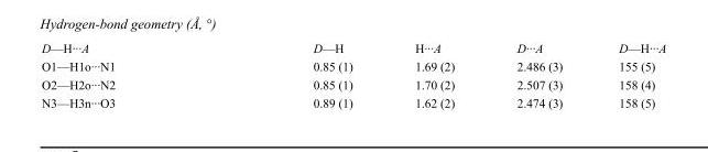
<table><tbody><tr><td>D—H···A</td><td>D—H</td><td>H···A</td><td>D···A</td><td>D—H···A</td></tr><tr><td>O1—H1o···N1</td><td>0.85 (1)</td><td>1.69 (2)</td><td>2.486 (3)</td><td>155 (5)</td></tr><tr><td>O2—H2o···N2</td><td>0.85 (1)</td><td>1.70 (2)</td><td>2.507 (3)</td><td>158 (4)</td></tr><tr><td>N3—H3n···O3</td><td>0.89 (1)</td><td>1.62 (2)</td><td>2.474 (3)</td><td>158 (5)</td></tr></tbody></table>